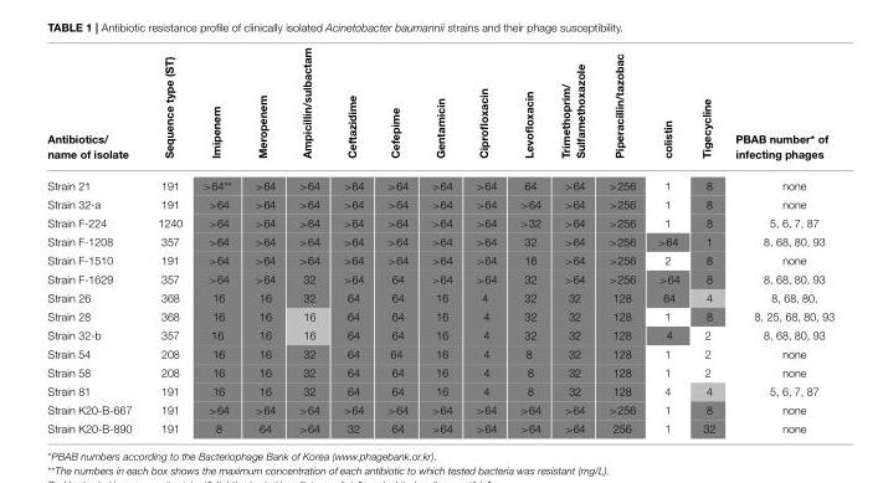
<table><thead><tr><td>Antibiotics/ name of isolate</td><td>Sequence type (ST)</td><td>Imipenem</td><td>Meropenem</td><td>Ampicillin/sulbactam</td><td>Ceftazidime</td><td>Cefepime</td><td>Gentamicin</td><td>Ciprofloxacin</td><td>Levofloxacin</td><td>Trimethoprim/ Sulfamethoxazole</td><td>Piperacillin/tazobac</td><td>colistin</td><td>Tigecycline</td><td>PBAB number* of infecting phages</td></tr></thead><tbody><tr><td>Strain 21</td><td>191</td><td>&gt;64**</td><td>&gt;64</td><td>&gt;64</td><td>&gt;64</td><td>&gt;64</td><td>&gt;64</td><td>&gt;64</td><td>64</td><td>&gt;64</td><td>&gt;256</td><td>1</td><td>8</td><td>none</td></tr><tr><td>Strain 32-a</td><td>191</td><td>&gt;64</td><td>&gt;64</td><td>&gt;64</td><td>&gt;64</td><td>&gt;64</td><td>&gt;64</td><td>&gt;64</td><td>&gt;64</td><td>&gt;64</td><td>&gt;256</td><td>1</td><td>8</td><td>none</td></tr><tr><td>Strain F-224</td><td>1240</td><td>&gt;64</td><td>&gt;64</td><td>&gt;64</td><td>&gt;64</td><td>&gt;64</td><td>&gt;64</td><td>&gt;64</td><td>&gt;32</td><td>&gt;64</td><td>&gt;256</td><td>1</td><td>8</td><td>5, 6, 7, 87</td></tr><tr><td>Strain F-1208</td><td>357</td><td>&gt;64</td><td>&gt;64</td><td>&gt;64</td><td>&gt;64</td><td>&gt;64</td><td>&gt;64</td><td>&gt;64</td><td>32</td><td>&gt;64</td><td>&gt;256</td><td>&gt;64</td><td>1</td><td>8, 68, 80, 93</td></tr><tr><td>Strain F-1510</td><td>191</td><td>&gt;64</td><td>&gt;64</td><td>&gt;64</td><td>&gt;64</td><td>&gt;64</td><td>&gt;64</td><td>&gt;64</td><td>16</td><td>&gt;64</td><td>&gt;256</td><td>2</td><td>8</td><td>none</td></tr><tr><td>Strain F-1629</td><td>357</td><td>&gt;64</td><td>&gt;64</td><td>32</td><td>&gt;64</td><td>64</td><td>&gt;64</td><td>&gt;64</td><td>32</td><td>&gt;64</td><td>&gt;256</td><td>&gt;64</td><td>8</td><td>8, 68, 80, 93</td></tr><tr><td>Strain 26</td><td>368</td><td>16</td><td>16</td><td>32</td><td>64</td><td>64</td><td>16</td><td>4</td><td>32</td><td>32</td><td>128</td><td>64</td><td>4</td><td>8, 68, 80,</td></tr><tr><td>Strain 28</td><td>368</td><td>16</td><td>16</td><td>16</td><td>64</td><td>64</td><td>16</td><td>4</td><td>32</td><td>32</td><td>128</td><td>1</td><td>8</td><td>8, 25, 68, 80, 93</td></tr><tr><td>Strain 32-b</td><td>357</td><td>16</td><td>16</td><td>16</td><td>64</td><td>64</td><td>16</td><td>4</td><td>32</td><td>32</td><td>128</td><td>4</td><td>2</td><td>8, 68, 80, 93</td></tr><tr><td>Strain 54</td><td>208</td><td>16</td><td>16</td><td>32</td><td>64</td><td>64</td><td>16</td><td>4</td><td>8</td><td>32</td><td>128</td><td>1</td><td>2</td><td>none</td></tr><tr><td>Strain 58</td><td>208</td><td>16</td><td>16</td><td>32</td><td>64</td><td>64</td><td>16</td><td>4</td><td>8</td><td>32</td><td>128</td><td>1</td><td>2</td><td>none</td></tr><tr><td>Strain 81</td><td>191</td><td>16</td><td>16</td><td>32</td><td>64</td><td>64</td><td>16</td><td>4</td><td>8</td><td>32</td><td>128</td><td>4</td><td>4</td><td>5, 6, 7, 87</td></tr><tr><td>Strain K20-B-667</td><td>191</td><td>&gt;64</td><td>&gt;64</td><td>&gt;64</td><td>&gt;64</td><td>&gt;64</td><td>&gt;64</td><td>&gt;64</td><td>&gt;64</td><td>&gt;64</td><td>&gt;256</td><td>1</td><td>8</td><td>none</td></tr><tr><td>Strain K20-B-890</td><td>191</td><td>8</td><td>64</td><td>&gt;64</td><td>32</td><td>64</td><td>&gt;64</td><td>&gt;64</td><td>&gt;64</td><td>&gt;64</td><td>256</td><td>1</td><td>32</td><td>none</td></tr></tbody></table>